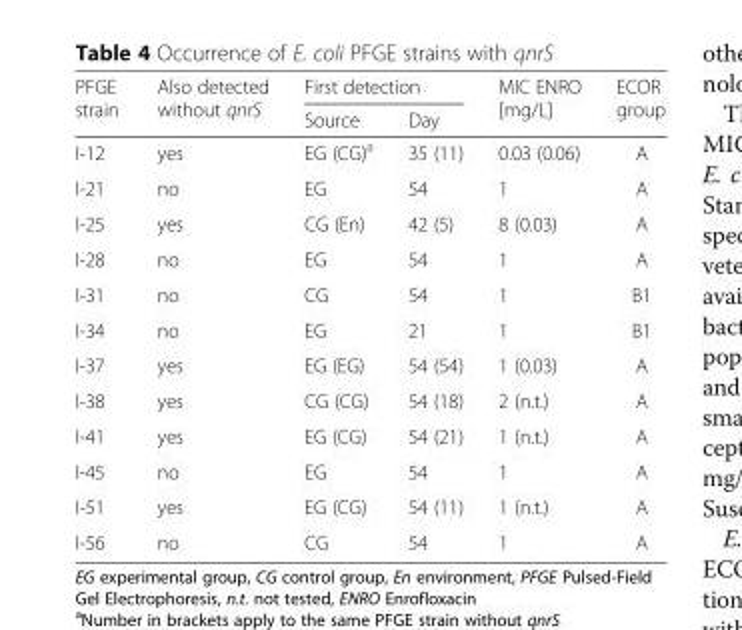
<table><thead><tr><td rowspan="2">PFGE strain</td><td rowspan="2">Also detected without qnrS</td><td colspan="2">First detection</td><td rowspan="2">MIC ENRO [mg/L]</td><td rowspan="2">ECOR group</td></tr><tr><td>Source</td><td>Day</td></tr></thead><tbody><tr><td>I-12</td><td>yes</td><td>EG (CG)<sup>a</sup></td><td>35 (11)</td><td>0.03 (0.06)</td><td>A</td></tr><tr><td>I-21</td><td>no</td><td>EG</td><td>54</td><td>1</td><td>A</td></tr><tr><td>I-25</td><td>yes</td><td>CG (En)</td><td>42 (5)</td><td>8 (0.03)</td><td>A</td></tr><tr><td>I-28</td><td>no</td><td>EG</td><td>54</td><td>1</td><td>A</td></tr><tr><td>I-31</td><td>no</td><td>CG</td><td>54</td><td>1</td><td>B1</td></tr><tr><td>I-34</td><td>no</td><td>EG</td><td>21</td><td>1</td><td>B1</td></tr><tr><td>I-37</td><td>yes</td><td>EG (EG)</td><td>54 (54)</td><td>1 (0.03)</td><td>A</td></tr><tr><td>I-38</td><td>yes</td><td>CG (CG)</td><td>54 (18)</td><td>2 (n.t.)</td><td>A</td></tr><tr><td>I-41</td><td>yes</td><td>EG (CG)</td><td>54 (21)</td><td>1 (n.t.)</td><td>A</td></tr><tr><td>I-45</td><td>no</td><td>EG</td><td>54</td><td>1</td><td>A</td></tr><tr><td>I-51</td><td>yes</td><td>EG (CG)</td><td>54 (11)</td><td>1 (n.t.)</td><td>A</td></tr><tr><td>I-56</td><td>no</td><td>CG</td><td>54</td><td>1</td><td>A</td></tr></tbody></table>